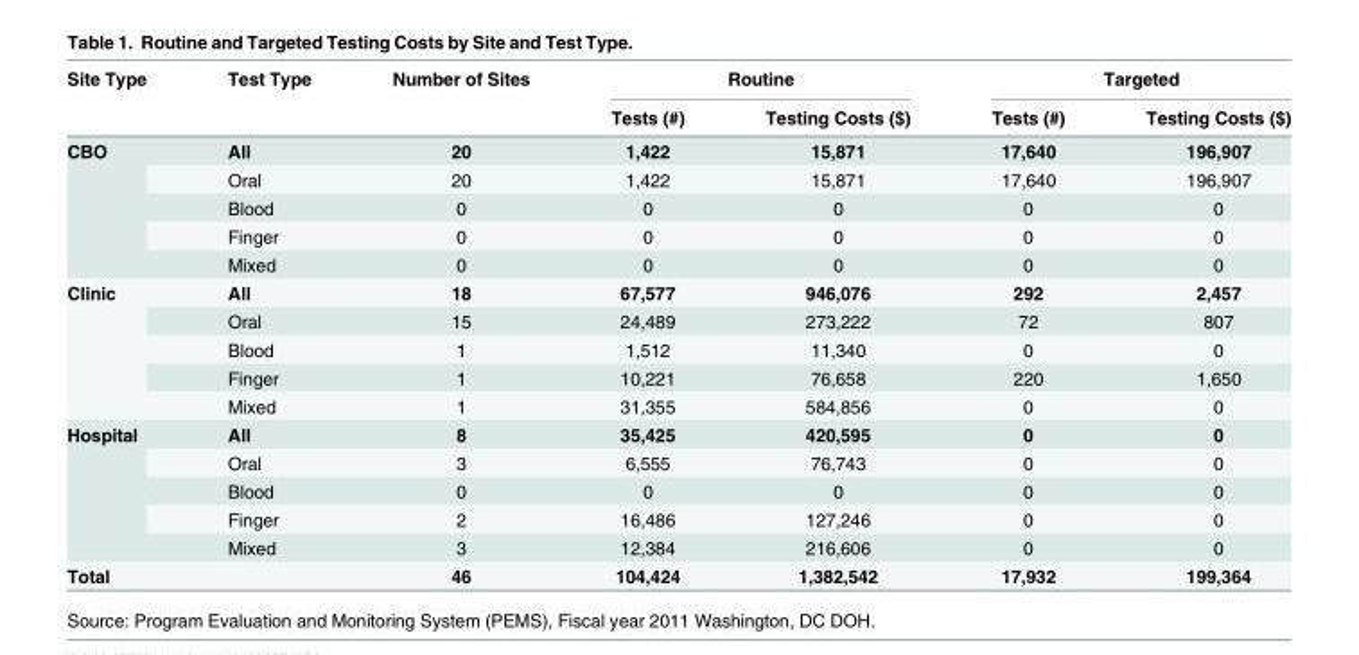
<table><thead><tr><td rowspan="2">Site Type</td><td rowspan="2">Test Type</td><td rowspan="2">Number of Sites</td><td colspan="2">Routine</td><td colspan="2">Targeted</td></tr><tr><td>Tests (#)</td><td>Testing Costs ($)</td><td>Tests (#)</td><td>Testing Costs ($)</td></tr></thead><tbody><tr><td rowspan="5">CBO</td><td>All</td><td>20</td><td>1,422</td><td>15,871</td><td>17,640</td><td>196,907</td></tr><tr><td>Oral</td><td>20</td><td>1,422</td><td>15,871</td><td>17,640</td><td>196,907</td></tr><tr><td>Blood</td><td>0</td><td>0</td><td>0</td><td>0</td><td>0</td></tr><tr><td>Finger</td><td>0</td><td>0</td><td>0</td><td>0</td><td>0</td></tr><tr><td>Mixed</td><td>0</td><td>0</td><td>0</td><td>0</td><td>0</td></tr><tr><td rowspan="5">Clinic</td><td>All</td><td>18</td><td>67,577</td><td>946,076</td><td>292</td><td>2,457</td></tr><tr><td>Oral</td><td>15</td><td>24,489</td><td>273,222</td><td>72</td><td>807</td></tr><tr><td>Blood</td><td>1</td><td>1,512</td><td>11,340</td><td>0</td><td>0</td></tr><tr><td>Finger</td><td>1</td><td>10,221</td><td>76,658</td><td>220</td><td>1,650</td></tr><tr><td>Mixed</td><td>1</td><td>31,355</td><td>584,856</td><td>0</td><td>0</td></tr><tr><td rowspan="5">Hospital</td><td>All</td><td>8</td><td>35,425</td><td>420,595</td><td>0</td><td>0</td></tr><tr><td>Oral</td><td>3</td><td>6,555</td><td>76,743</td><td>0</td><td>0</td></tr><tr><td>Blood</td><td>0</td><td>0</td><td>0</td><td>0</td><td>0</td></tr><tr><td>Finger</td><td>2</td><td>16,486</td><td>127,246</td><td>0</td><td>0</td></tr><tr><td>Mixed</td><td>3</td><td>12,384</td><td>216,606</td><td>0</td><td>0</td></tr><tr><td>Total</td><td></td><td>46</td><td>104,424</td><td>1,382,542</td><td>17,932</td><td>199,364</td></tr></tbody></table>